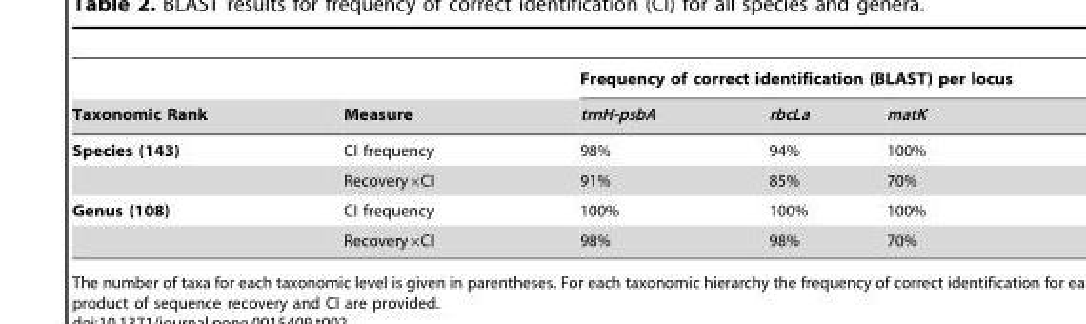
<table><thead><tr><td rowspan="2">Taxonomic Rank</td><td rowspan="2">Measure</td><td colspan="3">Frequency of correct identification (BLAST) per locus</td></tr><tr><td>trnH-psbA</td><td>rbcLa</td><td>matK</td></tr></thead><tbody><tr><td rowspan="2">Species (143)</td><td>CI frequency</td><td>98%</td><td>94%</td><td>100%</td></tr><tr><td>Recovery×CI</td><td>91%</td><td>85%</td><td>70%</td></tr><tr><td rowspan="2">Genus (108)</td><td>CI frequency</td><td>100%</td><td>100%</td><td>100%</td></tr><tr><td>Recovery×CI</td><td>98%</td><td>98%</td><td>70%</td></tr></tbody></table>